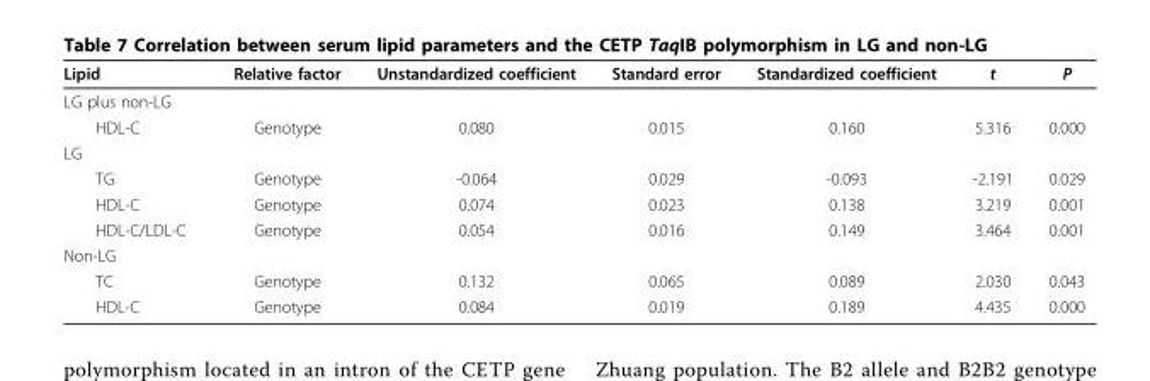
<table><thead><tr><td>Lipid</td><td>Relative factor</td><td>Unstandardized coefficient</td><td>Standard error</td><td>Standardized coefficient</td><td>t</td><td>P</td></tr></thead><tbody><tr><td colspan="7">LG plus non-LG</td></tr><tr><td>HDL-C</td><td>Genotype</td><td>0.080</td><td>0.015</td><td>0.160</td><td>5.316</td><td>0.000</td></tr><tr><td colspan="7">LG</td></tr><tr><td>TG</td><td>Genotype</td><td>-0.064</td><td>0.029</td><td>-0.093</td><td>-2.191</td><td>0.029</td></tr><tr><td>HDL-C</td><td>Genotype</td><td>0.074</td><td>0.023</td><td>0.138</td><td>3.219</td><td>0.001</td></tr><tr><td>HDL-C/LDL-C</td><td>Genotype</td><td>0.054</td><td>0.016</td><td>0.149</td><td>3.464</td><td>0.001</td></tr><tr><td colspan="7">Non-LG</td></tr><tr><td>TC</td><td>Genotype</td><td>0.132</td><td>0.065</td><td>0.089</td><td>2.030</td><td>0.043</td></tr><tr><td>HDL-C</td><td>Genotype</td><td>0.084</td><td>0.019</td><td>0.189</td><td>4.435</td><td>0.000</td></tr></tbody></table>